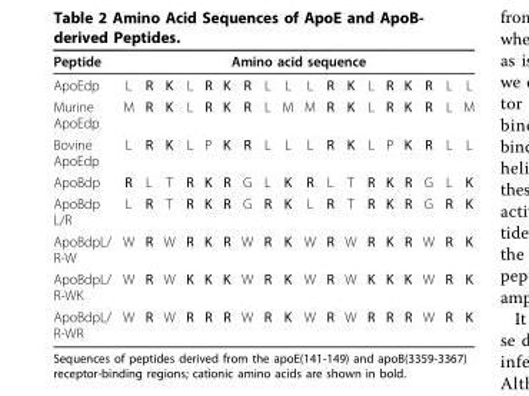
<table><thead><tr><td rowspan="2">Peptide ApoEdp</td><td colspan="18">Amino acid sequence</td></tr><tr><td>L</td><td>R</td><td>K</td><td>L</td><td>R</td><td>K</td><td>R</td><td>L</td><td>L</td><td>L</td><td>R</td><td>K</td><td>L</td><td>R</td><td>K</td><td>R</td><td>L</td><td>L</td></tr></thead><tbody><tr><td>Murine ApoEdp</td><td>M</td><td>R</td><td>K</td><td>L</td><td>R</td><td>K</td><td>R</td><td>L</td><td>M</td><td>M</td><td>R</td><td>K</td><td>L</td><td>R</td><td>K</td><td>R</td><td>L</td><td>M</td></tr><tr><td>Bovine ApoEdp</td><td>L</td><td>R</td><td>K</td><td>L</td><td>P</td><td>K</td><td>R</td><td>L</td><td>L</td><td>L</td><td>R</td><td>K</td><td>L</td><td>P</td><td>K</td><td>R</td><td>L</td><td>L</td></tr><tr><td>ApoBdp</td><td>R</td><td>L</td><td>T</td><td>R</td><td>K</td><td>R</td><td>G</td><td>L</td><td>K</td><td>R</td><td>L</td><td>T</td><td>R</td><td>K</td><td>R</td><td>G</td><td>L</td><td>K</td></tr><tr><td>ApoBdp L/R</td><td>L</td><td>R</td><td>T</td><td>R</td><td>K</td><td>R</td><td>G</td><td>R</td><td>K</td><td>L</td><td>R</td><td>T</td><td>R</td><td>K</td><td>R</td><td>G</td><td>R</td><td>K</td></tr><tr><td>ApoBdpL/ R-W</td><td>W</td><td>R</td><td>W</td><td>R</td><td>K</td><td>R</td><td>W</td><td>R</td><td>K</td><td>W</td><td>R</td><td>W</td><td>R</td><td>K</td><td>R</td><td>W</td><td>R</td><td>K</td></tr><tr><td>ApoBdpL/ R-WK</td><td>W</td><td>R</td><td>W</td><td>K</td><td>K</td><td>K</td><td>W</td><td>R</td><td>K</td><td>W</td><td>R</td><td>W</td><td>K</td><td>K</td><td>K</td><td>W</td><td>R</td><td>K</td></tr><tr><td>ApoBdpL/ R-WR</td><td>W</td><td>R</td><td>W</td><td>R</td><td>R</td><td>R</td><td>W</td><td>R</td><td>K</td><td>W</td><td>R</td><td>W</td><td>R</td><td>R</td><td>R</td><td>W</td><td>R</td><td>K</td></tr></tbody></table>